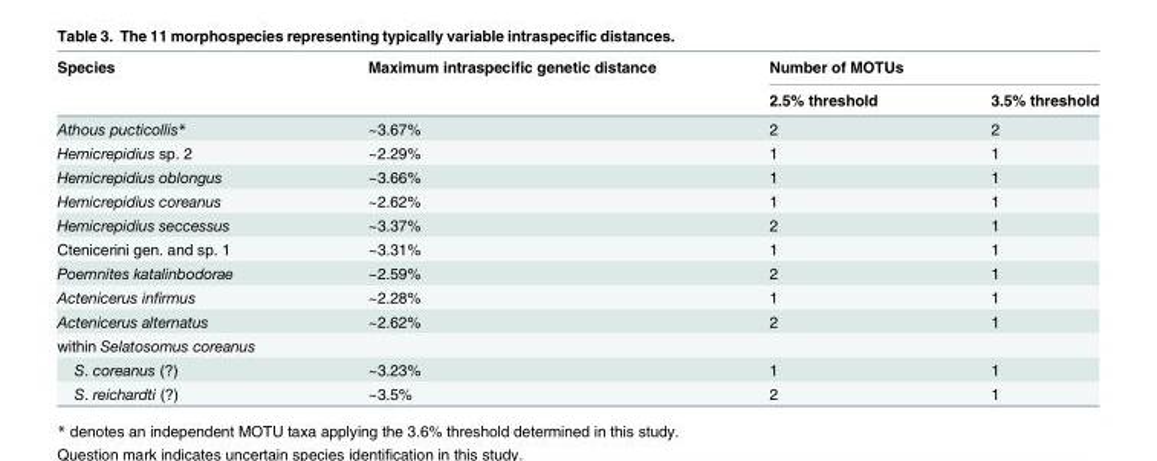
<table><thead><tr><td rowspan="2">Species</td><td rowspan="2">Maximum intraspecific genetic distance</td><td colspan="2">Number of MOTUs</td></tr><tr><td>2.5% threshold</td><td>3.5% threshold</td></tr></thead><tbody><tr><td>Athous pucticollis*</td><td>~3.67%</td><td>2</td><td>2</td></tr><tr><td>Hemicrepidius sp. 2</td><td>~2.29%</td><td>1</td><td>1</td></tr><tr><td>Hemicrepidius oblongus</td><td>~3.66%</td><td>1</td><td>1</td></tr><tr><td>Hemicrepidius coreanus</td><td>~2.62%</td><td>1</td><td>1</td></tr><tr><td>Hemicrepidius seccessus</td><td>~3.37%</td><td>2</td><td>1</td></tr><tr><td>Ctenicerini gen. and sp. 1</td><td>~3.31%</td><td>1</td><td>1</td></tr><tr><td>Poemnites katalinbodorae</td><td>~2.59%</td><td>2</td><td>1</td></tr><tr><td>Actenicerus infirmus</td><td>~2.28%</td><td>1</td><td>1</td></tr><tr><td>Actenicerus alternatus</td><td>~2.62%</td><td>2</td><td>1</td></tr><tr><td colspan="4">within Selatosomus coreanus</td></tr><tr><td>S. coreanus (?)</td><td>~3.23%</td><td>1</td><td>1</td></tr><tr><td>S. reichardti (?)</td><td>~3.5%</td><td>2</td><td>1</td></tr></tbody></table>